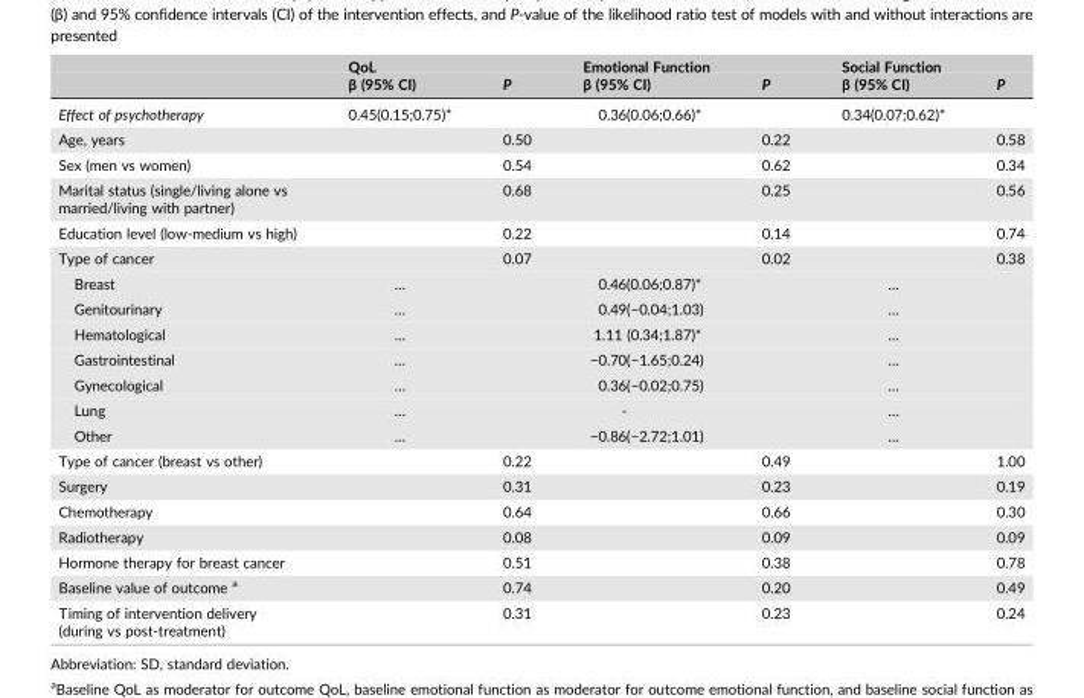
<table><thead><tr><td rowspan="2"></td><td rowspan="2">QoL β (95% CI)</td><td rowspan="2">P</td><td rowspan="2">Emotional Function β (95% CI)</td><td rowspan="2">P</td><td rowspan="2">Social Function β (95% CI)</td><td rowspan="2">P</td></tr><tr></tr></thead><tbody><tr><td>Effect of psychotherapy</td><td>0.45(0.15;0.75)*</td><td></td><td>0.36(0.06;0.66)*</td><td></td><td>0.34(0.07;0.62)*</td><td></td></tr><tr><td>Age, years</td><td></td><td>0.50</td><td></td><td>0.22</td><td></td><td>0.58</td></tr><tr><td>Sex (men vs women)</td><td></td><td>0.54</td><td></td><td>0.62</td><td></td><td>0.34</td></tr><tr><td>Marital status (single/living alone vs married/living with partner)</td><td></td><td>0.68</td><td></td><td>0.25</td><td></td><td>0.56</td></tr><tr><td>Education level (low‐medium vs high)</td><td></td><td>0.22</td><td></td><td>0.14</td><td></td><td>0.74</td></tr><tr><td>Type of cancer</td><td></td><td>0.07</td><td></td><td>0.02</td><td></td><td>0.38</td></tr><tr><td>Breast</td><td>…</td><td></td><td>0.46(0.06;0.87)*</td><td></td><td>…</td><td></td></tr><tr><td>Genitourinary</td><td>…</td><td></td><td>0.49(−0.04;1.03)</td><td></td><td>…</td><td></td></tr><tr><td>Hematological</td><td>…</td><td></td><td>1.11 (0.34;1.87)*</td><td></td><td>…</td><td></td></tr><tr><td>Gastrointestinal</td><td>…</td><td></td><td>−0.70(−1.65;0.24)</td><td></td><td>…</td><td></td></tr><tr><td>Gynecological</td><td>…</td><td></td><td>0.36(−0.02;0.75)</td><td></td><td>…</td><td></td></tr><tr><td>Lung</td><td>…</td><td></td><td>‐</td><td></td><td>…</td><td></td></tr><tr><td>Other</td><td>…</td><td></td><td>−0.86(−2.72;1.01)</td><td></td><td>…</td><td></td></tr><tr><td>Type of cancer (breast vs other)</td><td></td><td>0.22</td><td></td><td>0.49</td><td></td><td>1.00</td></tr><tr><td>Surgery</td><td></td><td>0.31</td><td></td><td>0.23</td><td></td><td>0.19</td></tr><tr><td>Chemotherapy</td><td></td><td>0.64</td><td></td><td>0.66</td><td></td><td>0.30</td></tr><tr><td>Radiotherapy</td><td></td><td>0.08</td><td></td><td>0.09</td><td></td><td>0.09</td></tr><tr><td>Hormone therapy for breast cancer</td><td></td><td>0.51</td><td></td><td>0.38</td><td></td><td>0.78</td></tr><tr><td>Baseline value of outcome a</td><td></td><td>0.74</td><td></td><td>0.20</td><td></td><td>0.49</td></tr><tr><td>Timing of intervention delivery (during vs post‐treatment)</td><td></td><td>0.31</td><td></td><td>0.23</td><td></td><td>0.24</td></tr></tbody></table>